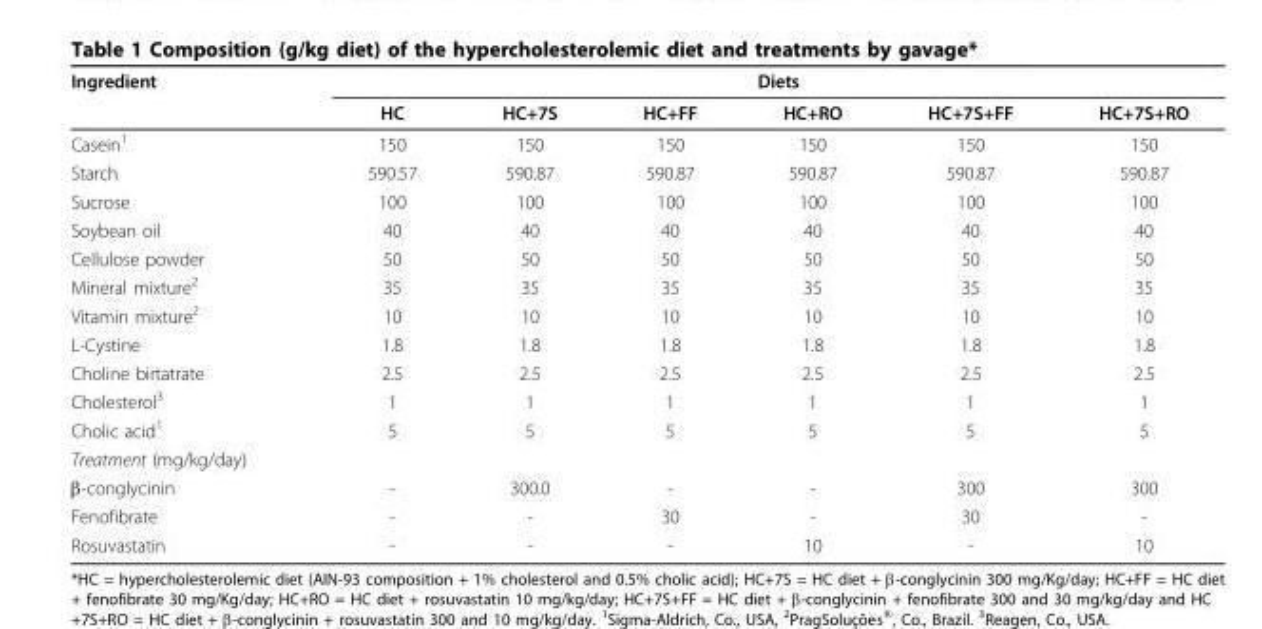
<table><thead><tr><td rowspan="2">Ingredient</td><td colspan="6">Diets</td></tr><tr><td>HC</td><td>HC+7S</td><td>HC+FF</td><td>HC+RO</td><td>HC+7S+FF</td><td>HC+7S+RO</td></tr></thead><tbody><tr><td>Casein<sup>1</sup></td><td>150</td><td>150</td><td>150</td><td>150</td><td>150</td><td>150</td></tr><tr><td>Starch</td><td>590.57</td><td>590.87</td><td>590.87</td><td>590.87</td><td>590.87</td><td>590.87</td></tr><tr><td>Sucrose</td><td>100</td><td>100</td><td>100</td><td>100</td><td>100</td><td>100</td></tr><tr><td>Soybean oil</td><td>40</td><td>40</td><td>40</td><td>40</td><td>40</td><td>40</td></tr><tr><td>Cellulose powder</td><td>50</td><td>50</td><td>50</td><td>50</td><td>50</td><td>50</td></tr><tr><td>Mineral mixture<sup>2</sup></td><td>35</td><td>35</td><td>35</td><td>35</td><td>35</td><td>35</td></tr><tr><td>Vitamin mixture<sup>2</sup></td><td>10</td><td>10</td><td>10</td><td>10</td><td>10</td><td>10</td></tr><tr><td>L-Cystine</td><td>1.8</td><td>1.8</td><td>1.8</td><td>1.8</td><td>1.8</td><td>1.8</td></tr><tr><td>Choline birtatrate</td><td>2.5</td><td>2.5</td><td>2.5</td><td>2.5</td><td>2.5</td><td>2.5</td></tr><tr><td>Cholesterol<sup>3</sup></td><td>1</td><td>1</td><td>1</td><td>1</td><td>1</td><td>1</td></tr><tr><td>Cholic acid<sup>1</sup></td><td>5</td><td>5</td><td>5</td><td>5</td><td>5</td><td>5</td></tr><tr><td colspan="7">Treatment (mg/kg/day)</td></tr><tr><td>β-conglycinin</td><td>-</td><td>300.0</td><td>-</td><td>-</td><td>300</td><td>300</td></tr><tr><td>Fenofibrate</td><td>-</td><td>-</td><td>30</td><td>-</td><td>30</td><td>-</td></tr><tr><td>Rosuvastatin</td><td>-</td><td>-</td><td>-</td><td>10</td><td>-</td><td>10</td></tr></tbody></table>